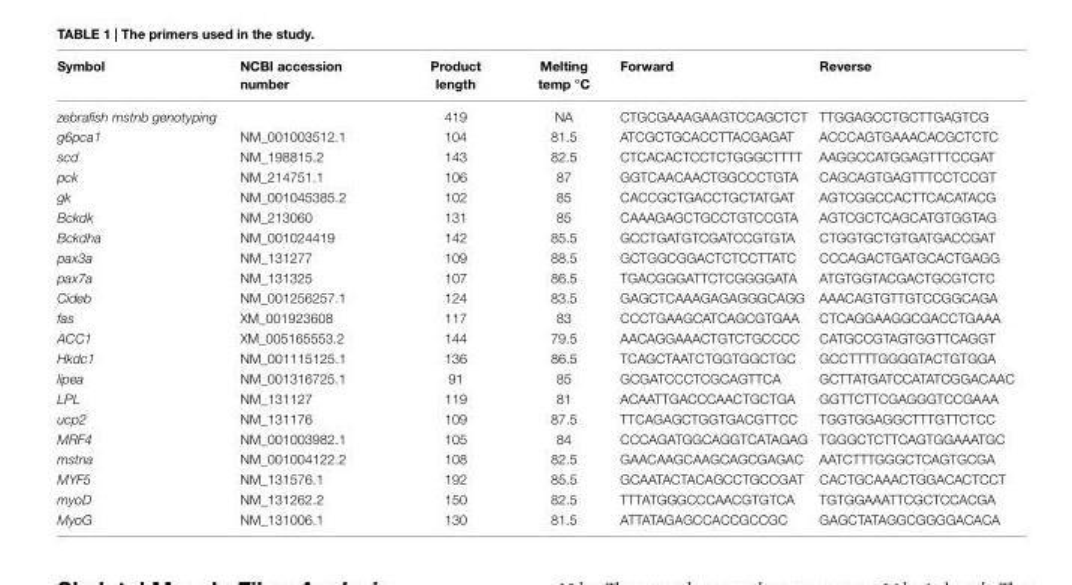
<table><thead><tr><td>symbol</td><td>ncBi accession number</td><td>Product length</td><td>Melting temp °c</td><td>Forward</td><td>reverse</td></tr></thead><tbody><tr><td>zebrafish mstnb genotyping</td><td></td><td>419</td><td>NA</td><td>CTGCGAAAGAAGTCCAGCTCT</td><td>TTGGAGCCTGCTTGAGTCG</td></tr><tr><td>g6pca1</td><td>NM_001003512.1</td><td>104</td><td>81.5</td><td>ATCGCTGCACCTTACGAGAT</td><td>ACCCAGTGAAACACGCTCTC</td></tr><tr><td>scd</td><td>NM_198815.2</td><td>143</td><td>82.5</td><td>CTCACACTCCTCTGGGCTTTT</td><td>AAGGCCATGGAGTTTCCGAT</td></tr><tr><td>pck</td><td>NM_214751.1</td><td>106</td><td>87</td><td>GGTCAACAACTGGCCCTGTA</td><td>CAGCAGTGAGTTTCCTCCGT</td></tr><tr><td>gk</td><td>NM_001045385.2</td><td>102</td><td>85</td><td>CACCGCTGACCTGCTATGAT</td><td>AGTCGGCCACTTCACATACG</td></tr><tr><td>Bckdk</td><td>NM_213060</td><td>131</td><td>85</td><td>CAAAGAGCTGCCTGTCCGTA</td><td>AGTCGCTCAGCATGTGGTAG</td></tr><tr><td>Bckdha</td><td>NM_001024419</td><td>142</td><td>85.5</td><td>GCCTGATGTCGATCCGTGTA</td><td>CTGGTGCTGTGATGACCGAT</td></tr><tr><td>pax3a</td><td>NM_131277</td><td>109</td><td>88.5</td><td>GCTGGCGGACTCTCCTTATC</td><td>CCCAGACTGATGCACTGAGG</td></tr><tr><td>pax7a</td><td>NM_131325</td><td>107</td><td>86.5</td><td>TGACGGGATTCTCGGGGATA</td><td>ATGTGGTACGACTGCGTCTC</td></tr><tr><td>Cideb</td><td>NM_001256257.1</td><td>124</td><td>83.5</td><td>GAGCTCAAAGAGAGGGCAGG</td><td>AAACAGTGTTGTCCGGCAGA</td></tr><tr><td>fas</td><td>XM_001923608</td><td>117</td><td>83</td><td>CCCTGAAGCATCAGCGTGAA</td><td>CTCAGGAAGGCGACCTGAAA</td></tr><tr><td>ACC1</td><td>XM_005165553.2</td><td>144</td><td>79.5</td><td>AACAGGAAACTGTCTGCCCC</td><td>CATGCCGTAGTGGTTCAGGT</td></tr><tr><td>Hkdc1</td><td>NM_001115125.1</td><td>136</td><td>86.5</td><td>TCAGCTAATCTGGTGGCTGC</td><td>GCCTTTTGGGGTACTGTGGA</td></tr><tr><td>lipea</td><td>NM_001316725.1</td><td>91</td><td>85</td><td>GCGATCCCTCGCAGTTCA</td><td>GCTTATGATCCATATCGGACAAC</td></tr><tr><td>LPL</td><td>NM_131127</td><td>119</td><td>81</td><td>ACAATTGACCCAACTGCTGA</td><td>GGTTCTTCGAGGGTCCGAAA</td></tr><tr><td>ucp2</td><td>NM_131176</td><td>109</td><td>87.5</td><td>TTCAGAGCTGGTGACGTTCC</td><td>TGGTGGAGGCTTTGTTCTCC</td></tr><tr><td>MRF4</td><td>NM_001003982.1</td><td>105</td><td>84</td><td>CCCAGATGGCAGGTCATAGAG</td><td>TGGGCTCTTCAGTGGAAATGC</td></tr><tr><td>mstna</td><td>NM_001004122.2</td><td>108</td><td>82.5</td><td>GAACAAGCAAGCAGCGAGAC</td><td>AATCTTTGGGCTCAGTGCGA</td></tr><tr><td>MYF5</td><td>NM_131576.1</td><td>192</td><td>85.5</td><td>GCAATACTACAGCCTGCCGAT</td><td>CACTGCAAACTGGACACTCCT</td></tr><tr><td>myoD</td><td>NM_131262.2</td><td>150</td><td>82.5</td><td>TTTATGGGCCCAACGTGTCA</td><td>TGTGGAAATTCGCTCCACGA</td></tr><tr><td>MyoG</td><td>NM_131006.1</td><td>130</td><td>81.5</td><td>ATTATAGAGCCACCGCCGC</td><td>GAGCTATAGGCGGGGACACA</td></tr></tbody></table>